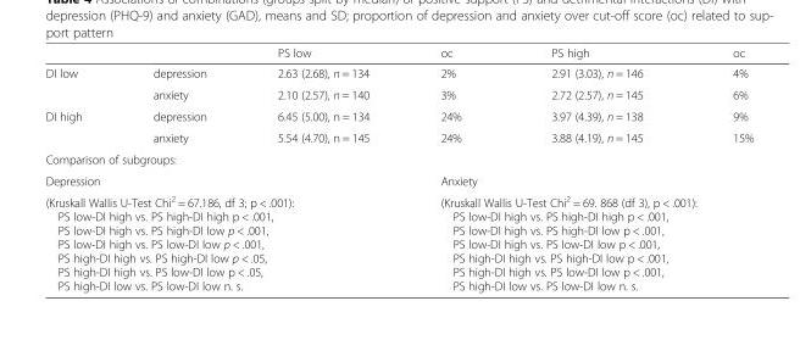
<table><thead><tr><td></td><td></td><td>PS low</td><td>oc</td><td>PS high</td><td>oc</td></tr></thead><tbody><tr><td rowspan="2">DI low</td><td>depression</td><td>2.63 (2.68), n = 134</td><td>2%</td><td>2.91 (3.03), n = 146</td><td>4%</td></tr><tr><td>anxiety</td><td>2.10 (2.57), n = 140</td><td>3%</td><td>2.72 (2.57), n = 145</td><td>6%</td></tr><tr><td rowspan="2">DI high</td><td>depression</td><td>6.45 (5.00), n = 134</td><td>24%</td><td>3.97 (4.39), n = 138</td><td>9%</td></tr><tr><td>anxiety</td><td>5.54 (4.70), n = 145</td><td>24%</td><td>3.88 (4.19), n = 145</td><td>15%</td></tr><tr><td colspan="6">Comparison of subgroups:</td></tr><tr><td colspan="3">Depression</td><td colspan="3">Anxiety</td></tr><tr><td colspan="3">(Kruskall Wallis U-Test Chi<sup>2</sup> = 67.186, df 3; p &lt; .001): PS low-DI high vs. PS high-DI high p &lt; .001, PS low-DI high vs. PS high-DI low p &lt; .001, PS low-DI high vs. PS low-DI low p &lt; .001, PS high-DI high vs. PS high-DI low p &lt; .05, PS high-DI high vs. PS low-DI low p &lt; .05, PS high-DI low vs. PS low-DI low n. s.</td><td colspan="3">(Kruskall Wallis U-Test Chi<sup>2</sup> = 69. 868 (df 3), p &lt; .001): PS low-DI high vs. PS high-DI high p &lt; .001, PS low-DI high vs. PS high-DI low p &lt; .001, PS low-DI high vs. PS low-DI low p &lt; .001, PS high-DI high vs. PS high-DI low p &lt; .001, PS high-DI high vs. PS low-DI low p &lt; .001, PS high-DI low vs. PS low-DI low n. s.</td></tr></tbody></table>